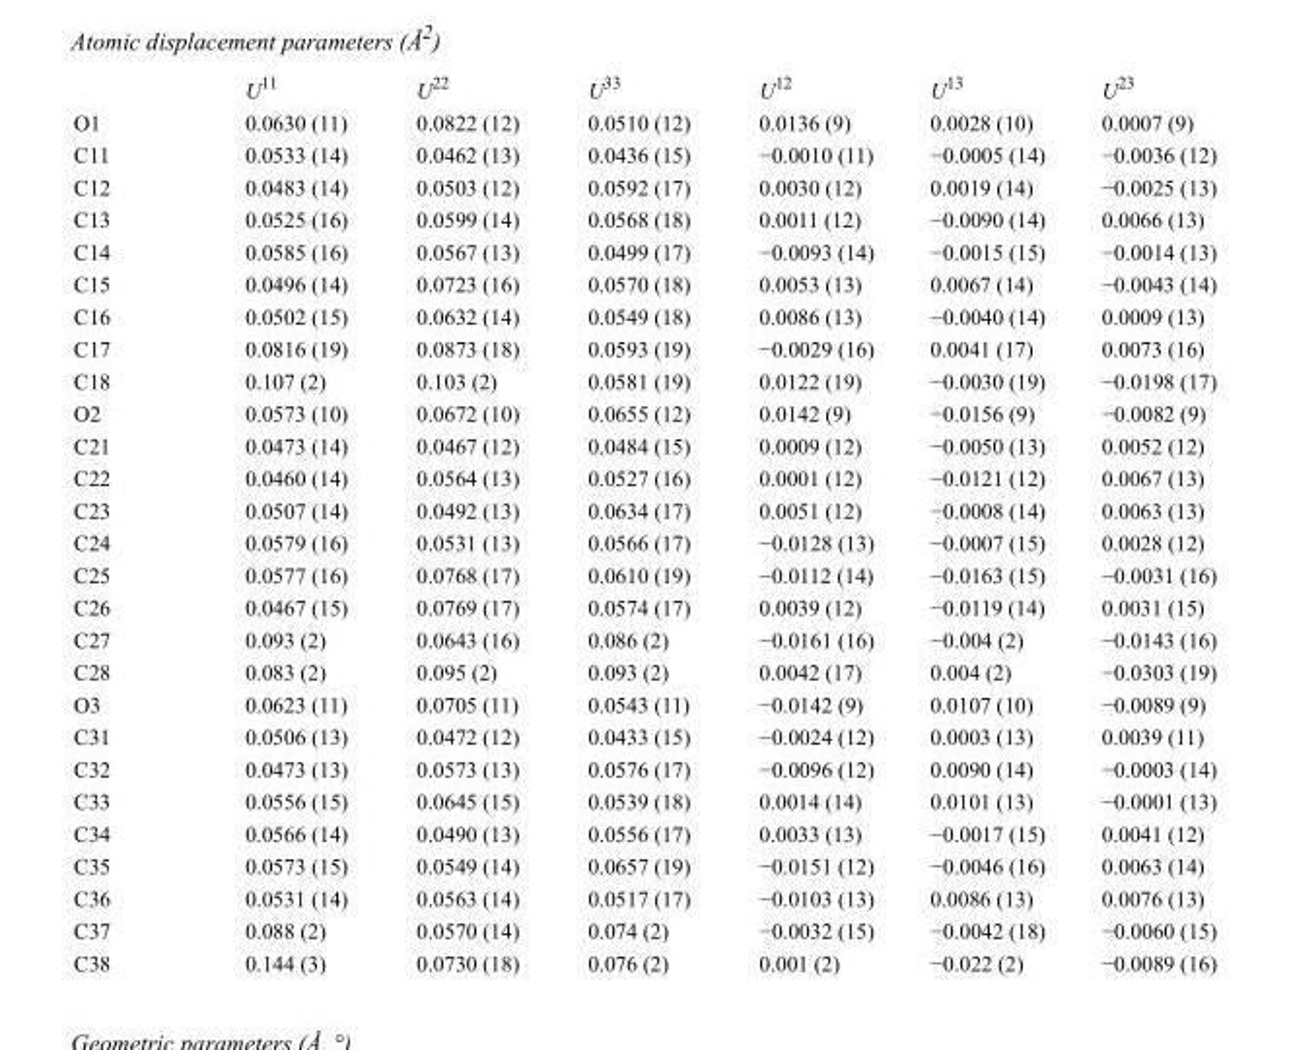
<table><thead><tr><td></td><td>U<sup>11</sup></td><td>U<sup>22</sup></td><td>U<sup>33</sup></td><td>U<sup>12</sup></td><td>U<sup>13</sup></td><td>U<sup>23</sup></td></tr></thead><tbody><tr><td>O1</td><td>0.0630 (11)</td><td>0.0822 (12)</td><td>0.0510 (12)</td><td>0.0136 (9)</td><td>0.0028 (10)</td><td>0.0007 (9)</td></tr><tr><td>C11</td><td>0.0533 (14)</td><td>0.0462 (13)</td><td>0.0436 (15)</td><td>−0.0010 (11)</td><td>−0.0005 (14)</td><td>−0.0036 (12)</td></tr><tr><td>C12</td><td>0.0483 (14)</td><td>0.0503 (12)</td><td>0.0592 (17)</td><td>0.0030 (12)</td><td>0.0019 (14)</td><td>−0.0025 (13)</td></tr><tr><td>C13</td><td>0.0525 (16)</td><td>0.0599 (14)</td><td>0.0568 (18)</td><td>0.0011 (12)</td><td>−0.0090 (14)</td><td>0.0066 (13)</td></tr><tr><td>C14</td><td>0.0585 (16)</td><td>0.0567 (13)</td><td>0.0499 (17)</td><td>−0.0093 (14)</td><td>−0.0015 (15)</td><td>−0.0014 (13)</td></tr><tr><td>C15</td><td>0.0496 (14)</td><td>0.0723 (16)</td><td>0.0570 (18)</td><td>0.0053 (13)</td><td>0.0067 (14)</td><td>−0.0043 (14)</td></tr><tr><td>C16</td><td>0.0502 (15)</td><td>0.0632 (14)</td><td>0.0549 (18)</td><td>0.0086 (13)</td><td>−0.0040 (14)</td><td>0.0009 (13)</td></tr><tr><td>C17</td><td>0.0816 (19)</td><td>0.0873 (18)</td><td>0.0593 (19)</td><td>−0.0029 (16)</td><td>0.0041 (17)</td><td>0.0073 (16)</td></tr><tr><td>C18</td><td>0.107 (2)</td><td>0.103 (2)</td><td>0.0581 (19)</td><td>0.0122 (19)</td><td>−0.0030 (19)</td><td>−0.0198 (17)</td></tr><tr><td>O2</td><td>0.0573 (10)</td><td>0.0672 (10)</td><td>0.0655 (12)</td><td>0.0142 (9)</td><td>−0.0156 (9)</td><td>−0.0082 (9)</td></tr><tr><td>C21</td><td>0.0473 (14)</td><td>0.0467 (12)</td><td>0.0484 (15)</td><td>0.0009 (12)</td><td>−0.0050 (13)</td><td>0.0052 (12)</td></tr><tr><td>C22</td><td>0.0460 (14)</td><td>0.0564 (13)</td><td>0.0527 (16)</td><td>0.0001 (12)</td><td>−0.0121 (12)</td><td>0.0067 (13)</td></tr><tr><td>C23</td><td>0.0507 (14)</td><td>0.0492 (13)</td><td>0.0634 (17)</td><td>0.0051 (12)</td><td>−0.0008 (14)</td><td>0.0063 (13)</td></tr><tr><td>C24</td><td>0.0579 (16)</td><td>0.0531 (13)</td><td>0.0566 (17)</td><td>−0.0128 (13)</td><td>−0.0007 (15)</td><td>0.0028 (12)</td></tr><tr><td>C25</td><td>0.0577 (16)</td><td>0.0768 (17)</td><td>0.0610 (19)</td><td>−0.0112 (14)</td><td>−0.0163 (15)</td><td>−0.0031 (16)</td></tr><tr><td>C26</td><td>0.0467 (15)</td><td>0.0769 (17)</td><td>0.0574 (17)</td><td>0.0039 (12)</td><td>−0.0119 (14)</td><td>0.0031 (15)</td></tr><tr><td>C27</td><td>0.093 (2)</td><td>0.0643 (16)</td><td>0.086 (2)</td><td>−0.0161 (16)</td><td>−0.004 (2)</td><td>−0.0143 (16)</td></tr><tr><td>C28</td><td>0.083 (2)</td><td>0.095 (2)</td><td>0.093 (2)</td><td>0.0042 (17)</td><td>0.004 (2)</td><td>−0.0303 (19)</td></tr><tr><td>O3</td><td>0.0623 (11)</td><td>0.0705 (11)</td><td>0.0543 (11)</td><td>−0.0142 (9)</td><td>0.0107 (10)</td><td>−0.0089 (9)</td></tr><tr><td>C31</td><td>0.0506 (13)</td><td>0.0472 (12)</td><td>0.0433 (15)</td><td>−0.0024 (12)</td><td>0.0003 (13)</td><td>0.0039 (11)</td></tr><tr><td>C32</td><td>0.0473 (13)</td><td>0.0573 (13)</td><td>0.0576 (17)</td><td>−0.0096 (12)</td><td>0.0090 (14)</td><td>−0.0003 (14)</td></tr><tr><td>C33</td><td>0.0556 (15)</td><td>0.0645 (15)</td><td>0.0539 (18)</td><td>0.0014 (14)</td><td>0.0101 (13)</td><td>−0.0001 (13)</td></tr><tr><td>C34</td><td>0.0566 (14)</td><td>0.0490 (13)</td><td>0.0556 (17)</td><td>0.0033 (13)</td><td>−0.0017 (15)</td><td>0.0041 (12)</td></tr><tr><td>C35</td><td>0.0573 (15)</td><td>0.0549 (14)</td><td>0.0657 (19)</td><td>−0.0151 (12)</td><td>−0.0046 (16)</td><td>0.0063 (14)</td></tr><tr><td>C36</td><td>0.0531 (14)</td><td>0.0563 (14)</td><td>0.0517 (17)</td><td>−0.0103 (13)</td><td>0.0086 (13)</td><td>0.0076 (13)</td></tr><tr><td>C37</td><td>0.088 (2)</td><td>0.0570 (14)</td><td>0.074 (2)</td><td>−0.0032 (15)</td><td>−0.0042 (18)</td><td>−0.0060 (15)</td></tr><tr><td>C38</td><td>0.144 (3)</td><td>0.0730 (18)</td><td>0.076 (2)</td><td>0.001 (2)</td><td>−0.022 (2)</td><td>−0.0089 (16)</td></tr></tbody></table>